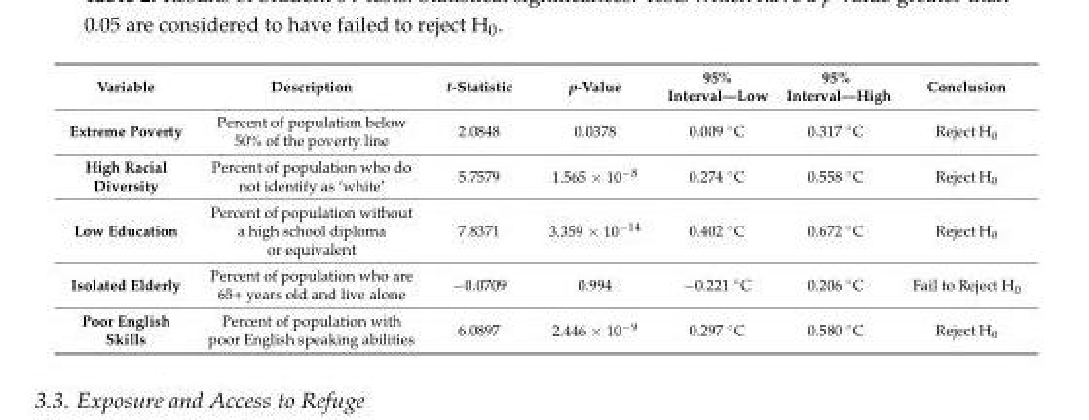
<table><thead><tr><td>Variable</td><td>Description</td><td>t-Statistic</td><td>p-Value</td><td>95% Interval—Low</td><td>95% Interval—High</td><td>Conclusion</td></tr></thead><tbody><tr><td>Extreme Poverty</td><td>Percent of population below 50% of the poverty line</td><td>2.0848</td><td>0.0378</td><td>0.009 ◦C</td><td>0.317 ◦C</td><td>Reject H<sub>0</sub></td></tr><tr><td>High Racial Diversity</td><td>Percent of population who do not identify as ‘white’</td><td>5.7579</td><td>1.565 × 10<sup>−8</sup></td><td>0.274 ◦C</td><td>0.558 ◦C</td><td>Reject H<sub>0</sub></td></tr><tr><td>Low Education</td><td>Percent of population without a high school diploma or equivalent</td><td>7.8371</td><td>3.359 × 10<sup>−14</sup></td><td>0.402 ◦C</td><td>0.672 ◦C</td><td>Reject H<sub>0</sub></td></tr><tr><td>Isolated Elderly</td><td>Percent of population who are 65+ years old and live alone</td><td>−0.0709</td><td>0.994</td><td>−0.221 ◦C</td><td>0.206 ◦C</td><td>Fail to Reject H<sub>0</sub></td></tr><tr><td>Poor English Skills</td><td>Percent of population with poor English speaking abilities</td><td>6.0897</td><td>2.446 × 10<sup>−9</sup></td><td>0.297 ◦C</td><td>0.580 ◦C</td><td>Reject H<sub>0</sub></td></tr></tbody></table>